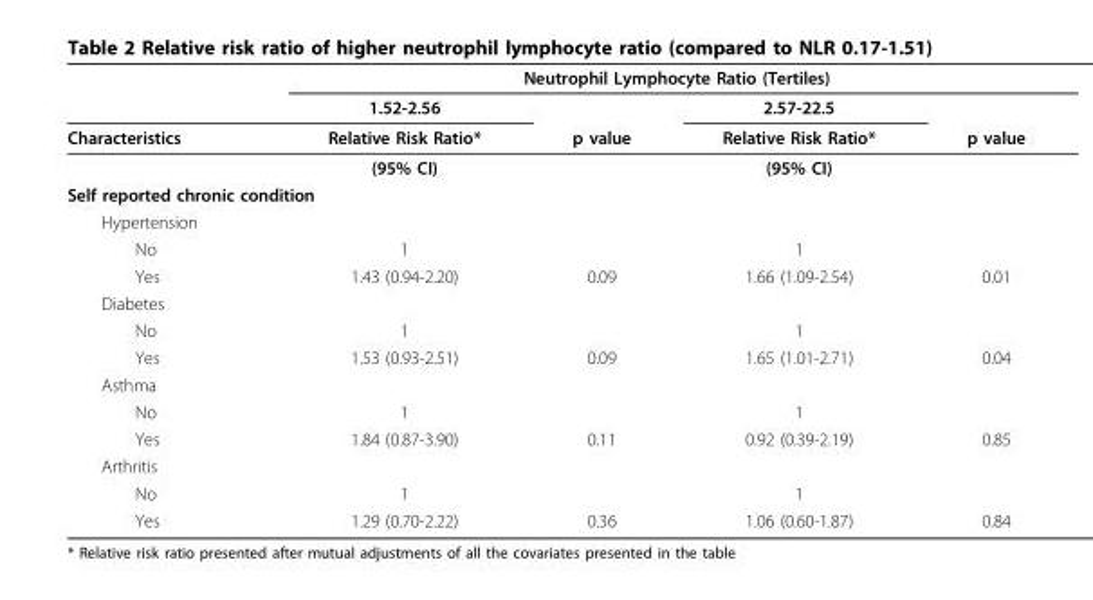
<table><thead><tr><td rowspan="2"></td><td colspan="4">Neutrophil Lymphocyte Ratio (Tertiles)</td></tr><tr><td>1.52-2.56</td><td></td><td>2.57-22.5</td><td></td></tr></thead><tbody><tr><td rowspan="2">Characteristics</td><td>Relative Risk Ratio*</td><td>p value</td><td>Relative Risk Ratio*</td><td>p value</td></tr><tr><td>(95% CI)</td><td></td><td>(95% CI)</td><td></td></tr><tr><td colspan="5">Self reported chronic condition</td></tr><tr><td colspan="5">Hypertension</td></tr><tr><td>No</td><td>1</td><td></td><td>1</td><td></td></tr><tr><td>Yes</td><td>1.43 (0.94-2.20)</td><td>0.09</td><td>1.66 (1.09-2.54)</td><td>0.01</td></tr><tr><td colspan="5">Diabetes</td></tr><tr><td>No</td><td>1</td><td></td><td>1</td><td></td></tr><tr><td>Yes</td><td>1.53 (0.93-2.51)</td><td>0.09</td><td>1.65 (1.01-2.71)</td><td>0.04</td></tr><tr><td colspan="5">Asthma</td></tr><tr><td>No</td><td>1</td><td></td><td>1</td><td></td></tr><tr><td>Yes</td><td>1.84 (0.87-3.90)</td><td>0.11</td><td>0.92 (0.39-2.19)</td><td>0.85</td></tr><tr><td colspan="5">Arthritis</td></tr><tr><td>No</td><td>1</td><td></td><td>1</td><td></td></tr><tr><td>Yes</td><td>1.29 (0.70-2.22)</td><td>0.36</td><td>1.06 (0.60-1.87)</td><td>0.84</td></tr></tbody></table>